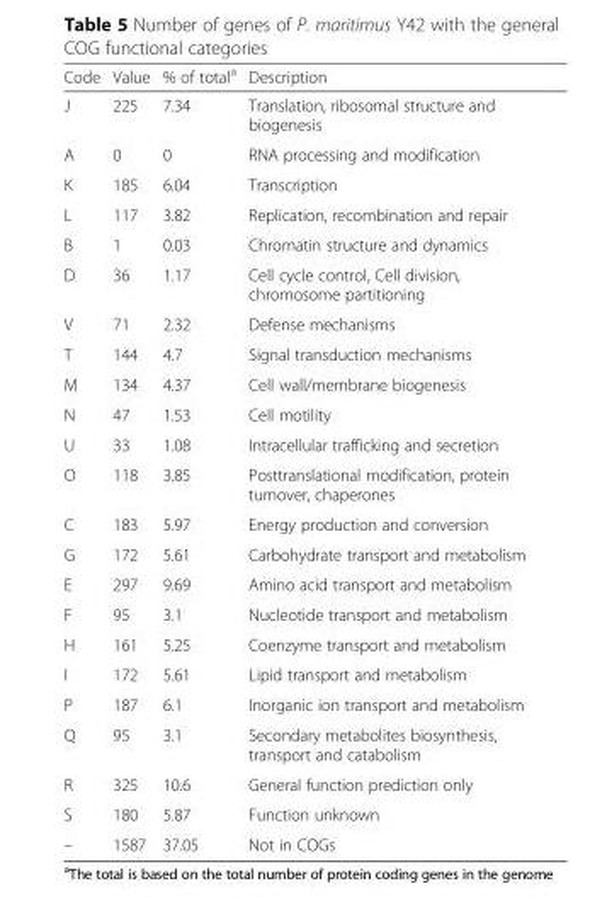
<table><thead><tr><td>Code</td><td>Value</td><td>% of total<sup>a</sup></td><td>Description</td></tr></thead><tbody><tr><td>J</td><td>225</td><td>7.34</td><td>Translation, ribosomal structure and biogenesis</td></tr><tr><td>A</td><td>0</td><td>0</td><td>RNA processing and modification</td></tr><tr><td>K</td><td>185</td><td>6.04</td><td>Transcription</td></tr><tr><td>L</td><td>117</td><td>3.82</td><td>Replication, recombination and repair</td></tr><tr><td>B</td><td>1</td><td>0.03</td><td>Chromatin structure and dynamics</td></tr><tr><td>D</td><td>36</td><td>1.17</td><td>Cell cycle control, Cell division, chromosome partitioning</td></tr><tr><td>V</td><td>71</td><td>2.32</td><td>Defense mechanisms</td></tr><tr><td>T</td><td>144</td><td>4.7</td><td>Signal transduction mechanisms</td></tr><tr><td>M</td><td>134</td><td>4.37</td><td>Cell wall/membrane biogenesis</td></tr><tr><td>N</td><td>47</td><td>1.53</td><td>Cell motility</td></tr><tr><td>U</td><td>33</td><td>1.08</td><td>Intracellular trafficking and secretion</td></tr><tr><td>O</td><td>118</td><td>3.85</td><td>Posttranslational modification, protein turnover, chaperones</td></tr><tr><td>C</td><td>183</td><td>5.97</td><td>Energy production and conversion</td></tr><tr><td>G</td><td>172</td><td>5.61</td><td>Carbohydrate transport and metabolism</td></tr><tr><td>E</td><td>297</td><td>9.69</td><td>Amino acid transport and metabolism</td></tr><tr><td>F</td><td>95</td><td>3.1</td><td>Nucleotide transport and metabolism</td></tr><tr><td>H</td><td>161</td><td>5.25</td><td>Coenzyme transport and metabolism</td></tr><tr><td>I</td><td>172</td><td>5.61</td><td>Lipid transport and metabolism</td></tr><tr><td>P</td><td>187</td><td>6.1</td><td>Inorganic ion transport and metabolism</td></tr><tr><td>Q</td><td>95</td><td>3.1</td><td>Secondary metabolites biosynthesis, transport and catabolism</td></tr><tr><td>R</td><td>325</td><td>10.6</td><td>General function prediction only</td></tr><tr><td>S</td><td>180</td><td>5.87</td><td>Function unknown</td></tr><tr><td>–</td><td>1587</td><td>37.05</td><td>Not in COGs</td></tr></tbody></table>